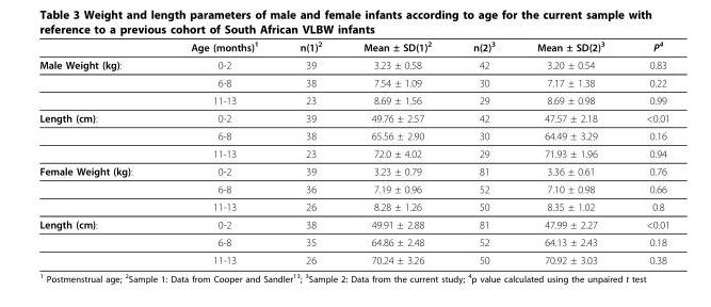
<table><thead><tr><td></td><td>Age (months)<sup>1</sup></td><td>n(1)<sup>2</sup></td><td>Mean ± SD(1)<sup>2</sup></td><td>n(2)<sup>3</sup></td><td>Mean ± SD(2)<sup>3</sup></td><td>P<sup>4</sup></td></tr></thead><tbody><tr><td rowspan="3">Male Weight (kg):</td><td>0-2</td><td>39</td><td>3.23 ± 0.58</td><td>42</td><td>3.20 ± 0.54</td><td>0.83</td></tr><tr><td>6-8</td><td>38</td><td>7.54 ± 1.09</td><td>30</td><td>7.17 ± 1.38</td><td>0.22</td></tr><tr><td>11-13</td><td>23</td><td>8.69 ± 1.56</td><td>29</td><td>8.69 ± 0.98</td><td>0.99</td></tr><tr><td rowspan="3">Length (cm):</td><td>0-2</td><td>39</td><td>49.76 ± 2.57</td><td>42</td><td>47.57 ± 2.18</td><td>&lt;0.01</td></tr><tr><td>6-8</td><td>38</td><td>65.56 ± 2.90</td><td>30</td><td>64.49 ± 3.29</td><td>0.16</td></tr><tr><td>11-13</td><td>23</td><td>72.0 ± 4.02</td><td>29</td><td>71.93 ± 1.96</td><td>0.94</td></tr><tr><td rowspan="3">Female Weight (kg):</td><td>0-2</td><td>39</td><td>3.23 ± 0.79</td><td>81</td><td>3.36 ± 0.61</td><td>0.76</td></tr><tr><td>6-8</td><td>36</td><td>7.19 ± 0.96</td><td>52</td><td>7.10 ± 0.98</td><td>0.66</td></tr><tr><td>11-13</td><td>26</td><td>8.28 ± 1.26</td><td>50</td><td>8.35 ± 1.02</td><td>0.8</td></tr><tr><td rowspan="3">Length (cm):</td><td>0-2</td><td>38</td><td>49.91 ± 2.88</td><td>81</td><td>47.99 ± 2.27</td><td>&lt;0.01</td></tr><tr><td>6-8</td><td>35</td><td>64.86 ± 2.48</td><td>52</td><td>64.13 ± 2.43</td><td>0.18</td></tr><tr><td>11-13</td><td>26</td><td>70.24 ± 3.26</td><td>50</td><td>70.92 ± 3.03</td><td>0.38</td></tr></tbody></table>